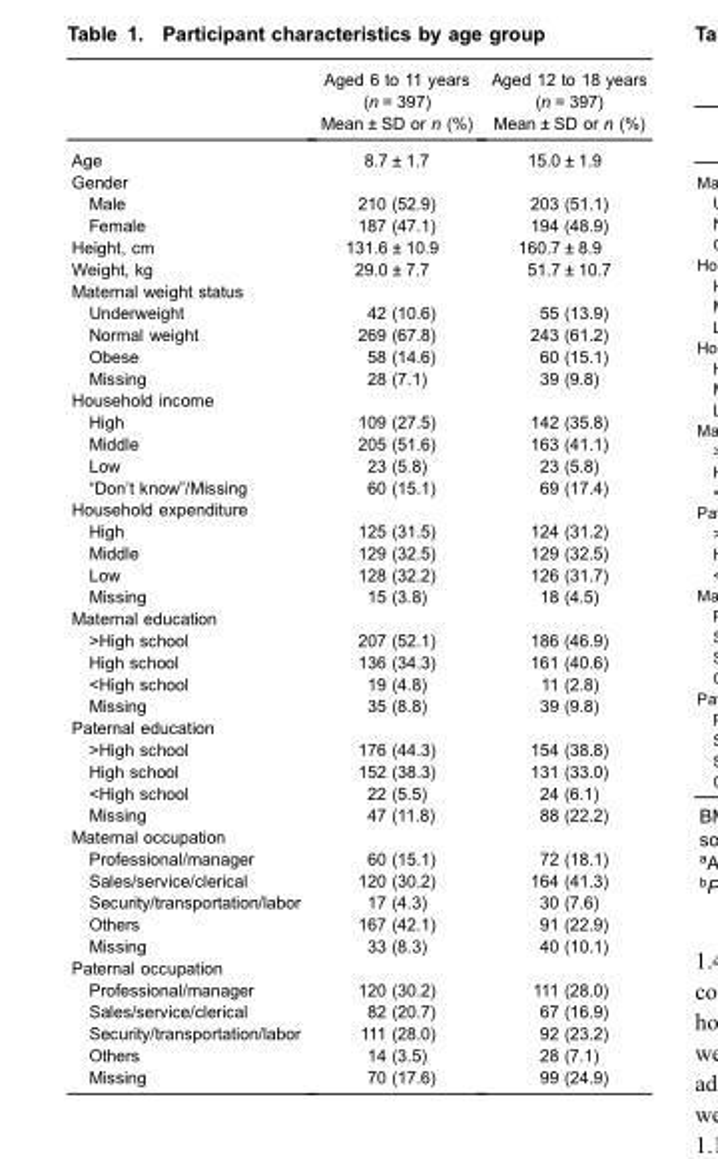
<table><thead><tr><td rowspan="3"></td><td rowspan="3">Aged 6 to 11 years (n = 397) Mean ± SD or n (%)</td><td rowspan="3">Aged 12 to 18 years (n = 397) Mean ± SD or n (%)</td></tr><tr></tr><tr></tr></thead><tbody><tr><td>Age</td><td>8.7 ± 1.7</td><td>15.0 ± 1.9</td></tr><tr><td colspan="3">Gender</td></tr><tr><td>Male</td><td>210 (52.9)</td><td>203 (51.1)</td></tr><tr><td>Female</td><td>187 (47.1)</td><td>194 (48.9)</td></tr><tr><td>Height, cm</td><td>131.6 ± 10.9</td><td>160.7 ± 8.9</td></tr><tr><td>Weight, kg</td><td>29.0 ± 7.7</td><td>51.7 ± 10.7</td></tr><tr><td colspan="3">Maternal weight status</td></tr><tr><td>Underweight</td><td>42 (10.6)</td><td>55 (13.9)</td></tr><tr><td>Normal weight</td><td>269 (67.8)</td><td>243 (61.2)</td></tr><tr><td>Obese</td><td>58 (14.6)</td><td>60 (15.1)</td></tr><tr><td>Missing</td><td>28 (7.1)</td><td>39 (9.8)</td></tr><tr><td colspan="3">Household income</td></tr><tr><td>High</td><td>109 (27.5)</td><td>142 (35.8)</td></tr><tr><td>Middle</td><td>205 (51.6)</td><td>163 (41.1)</td></tr><tr><td>Low</td><td>23 (5.8)</td><td>23 (5.8)</td></tr><tr><td>“Don’t know”/Missing</td><td>60 (15.1)</td><td>69 (17.4)</td></tr><tr><td colspan="3">Household expenditure</td></tr><tr><td>High</td><td>125 (31.5)</td><td>124 (31.2)</td></tr><tr><td>Middle</td><td>129 (32.5)</td><td>129 (32.5)</td></tr><tr><td>Low</td><td>128 (32.2)</td><td>126 (31.7)</td></tr><tr><td>Missing</td><td>15 (3.8)</td><td>18 (4.5)</td></tr><tr><td colspan="3">Maternal education</td></tr><tr><td>&gt;High school</td><td>207 (52.1)</td><td>186 (46.9)</td></tr><tr><td>High school</td><td>136 (34.3)</td><td>161 (40.6)</td></tr><tr><td>&lt;High school</td><td>19 (4.8)</td><td>11 (2.8)</td></tr><tr><td>Missing</td><td>35 (8.8)</td><td>39 (9.8)</td></tr><tr><td colspan="3">Paternal education</td></tr><tr><td>&gt;High school</td><td>176 (44.3)</td><td>154 (38.8)</td></tr><tr><td>High school</td><td>152 (38.3)</td><td>131 (33.0)</td></tr><tr><td>&lt;High school</td><td>22 (5.5)</td><td>24 (6.1)</td></tr><tr><td>Missing</td><td>47 (11.8)</td><td>88 (22.2)</td></tr><tr><td colspan="3">Maternal occupation</td></tr><tr><td>Professional/manager</td><td>60 (15.1)</td><td>72 (18.1)</td></tr><tr><td>Sales/service/clerical</td><td>120 (30.2)</td><td>164 (41.3)</td></tr><tr><td>Security/transportation/labor</td><td>17 (4.3)</td><td>30 (7.6)</td></tr><tr><td>Others</td><td>167 (42.1)</td><td>91 (22.9)</td></tr><tr><td>Missing</td><td>33 (8.3)</td><td>40 (10.1)</td></tr><tr><td colspan="3">Paternal occupation</td></tr><tr><td>Professional/manager</td><td>120 (30.2)</td><td>111 (28.0)</td></tr><tr><td>Sales/service/clerical</td><td>82 (20.7)</td><td>67 (16.9)</td></tr><tr><td>Security/transportation/labor</td><td>111 (28.0)</td><td>92 (23.2)</td></tr><tr><td>Others</td><td>14 (3.5)</td><td>28 (7.1)</td></tr><tr><td>Missing</td><td>70 (17.6)</td><td>99 (24.9)</td></tr></tbody></table>